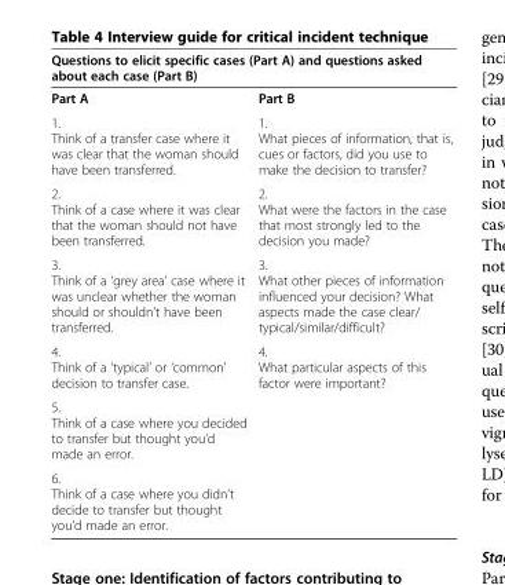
<table><thead><tr><td colspan="2">Questions to elicit specific cases (Part A) and questions asked about each case (Part B)</td></tr><tr><td>Part A</td><td>Part B</td></tr></thead><tbody><tr><td>1. Think of a transfer case where it was clear that the woman should have been transferred.</td><td>1. What pieces of information, that is, cues or factors, did you use to make the decision to transfer?</td></tr><tr><td>2. Think of a case where it was clear that the woman should not have been transferred.</td><td>2. What were the factors in the case that most strongly led to the decision you made?</td></tr><tr><td>3. Think of a ‘grey area’ case where it was unclear whether the woman should or shouldn’t have been transferred.</td><td>3. What other pieces of information influenced your decision? What aspects made the case clear/ typical/similar/difficult?</td></tr><tr><td>4. Think of a ‘typical’ or ‘common’ decision to transfer case.</td><td>4. What particular aspects of this factor were important?</td></tr><tr><td colspan="2">5. Think of a case where you decided to transfer but thought you’d made an error.</td></tr><tr><td>6. Think of a case where you didn’t decide to transfer but thought you’d made an error.</td><td></td></tr></tbody></table>